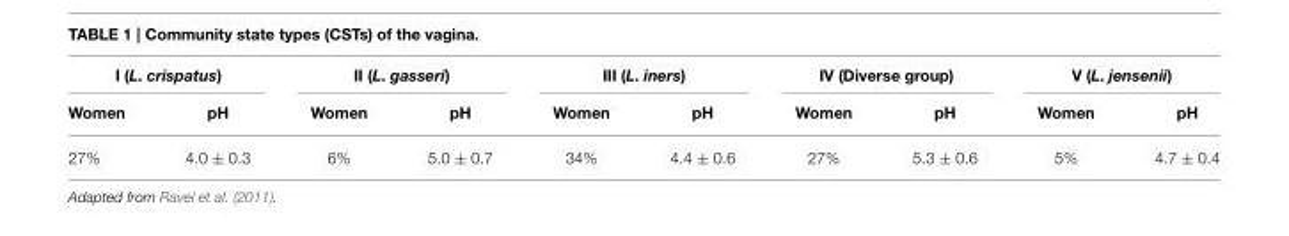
<table><thead><tr><td colspan="2">I (L. crispatus)</td><td colspan="2">II (L. gasseri)</td><td colspan="2">III (L. iners)</td><td colspan="2">IV (Diverse group)</td><td colspan="2">V (L. jensenii)</td></tr><tr><td>Women</td><td>pH</td><td>Women</td><td>pH</td><td>Women</td><td>pH</td><td>Women</td><td>pH</td><td>Women</td><td>pH</td></tr></thead><tbody><tr><td>27%</td><td>4.0 ± 0.3</td><td>6%</td><td>5.0 ± 0.7</td><td>34%</td><td>4.4 ± 0.6</td><td>27%</td><td>5.3 ± 0.6</td><td>5%</td><td>4.7 ± 0.4</td></tr></tbody></table>